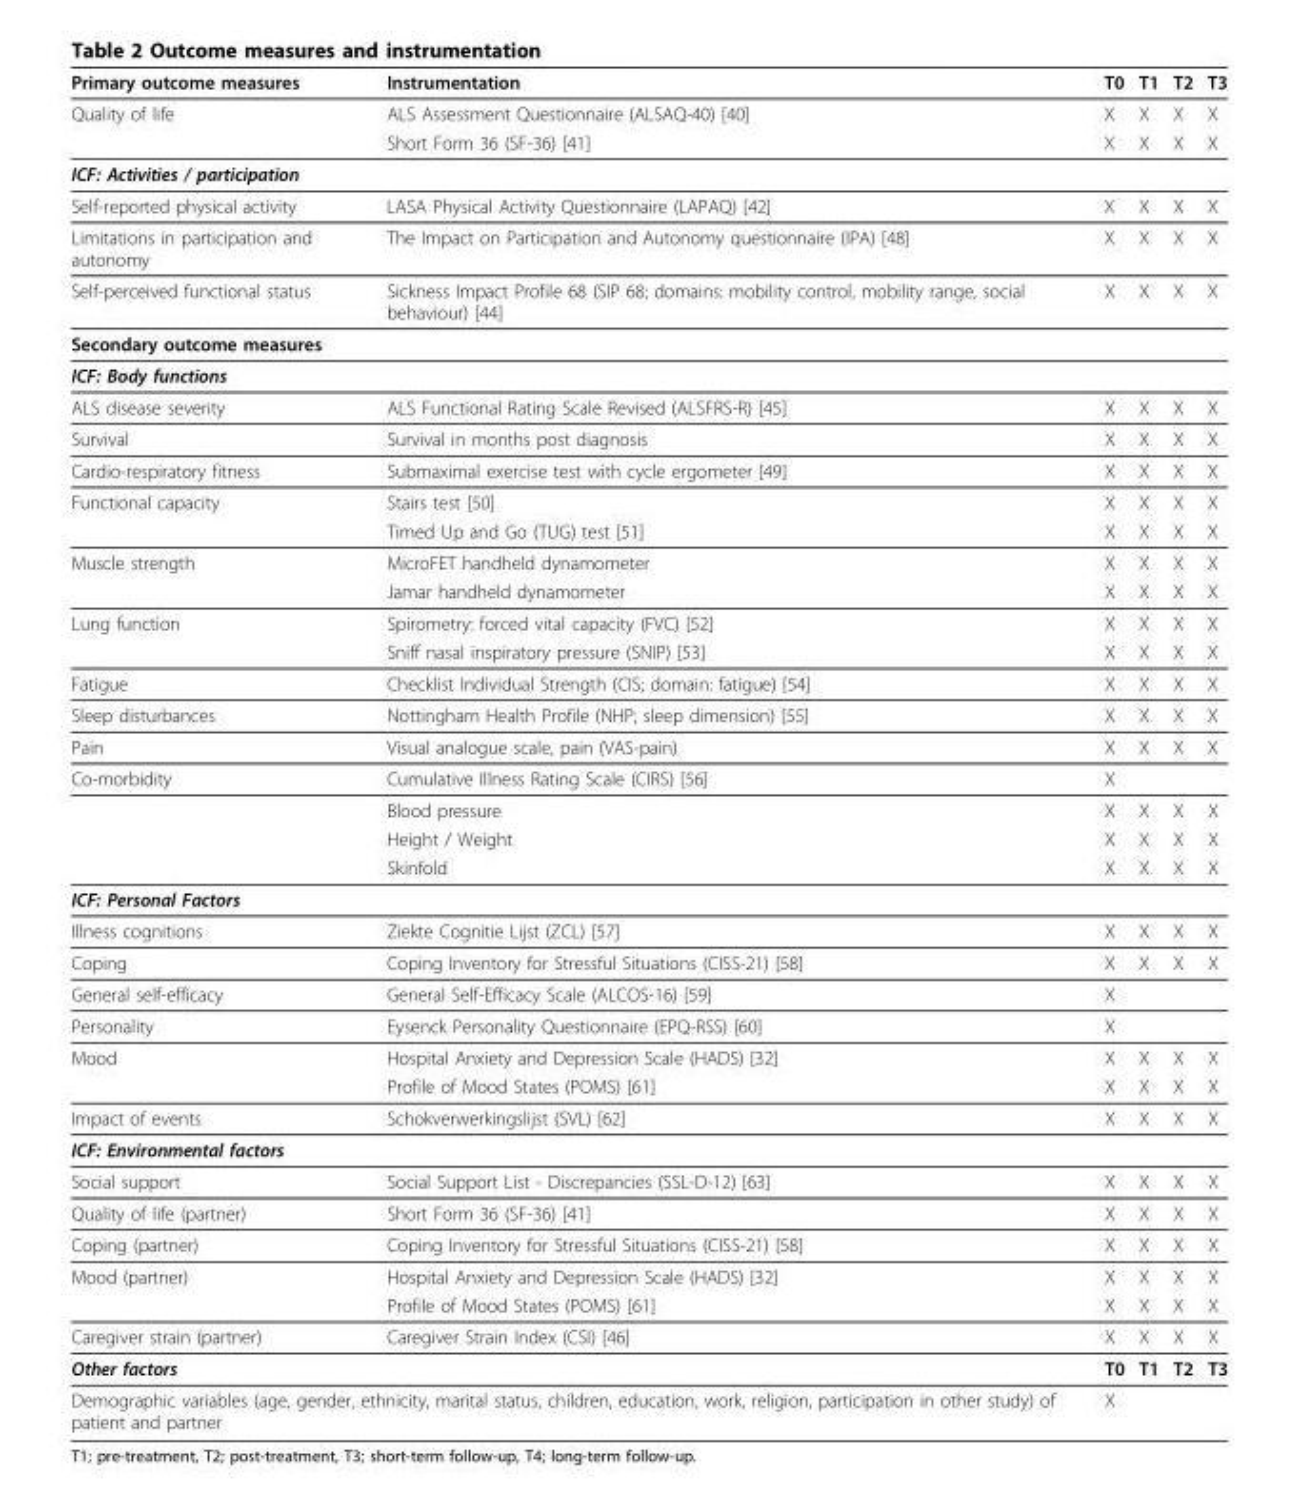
<table><thead><tr><td>Primary outcome measures</td><td>Instrumentation</td><td>T0</td><td>T1</td><td>T2</td><td>T3</td></tr></thead><tbody><tr><td rowspan="2">Quality of life</td><td>ALS Assessment Questionnaire (ALSAQ-40) [40]</td><td>X</td><td>X</td><td>X</td><td>X</td></tr><tr><td>Short Form 36 (SF-36) [41]</td><td>X</td><td>X</td><td>X</td><td>X</td></tr><tr><td colspan="6">ICF: Activities / participation</td></tr><tr><td>Self-reported physical activity</td><td>LASA Physical Activity Questionnaire (LAPAQ) [42]</td><td>X</td><td>X</td><td>X</td><td>X</td></tr><tr><td>Limitations in participation and autonomy</td><td>The Impact on Participation and Autonomy questionnaire (IPA) [48]</td><td>X</td><td>X</td><td>X</td><td>X</td></tr><tr><td>Self-perceived functional status</td><td>Sickness Impact Profile 68 (SIP 68; domains: mobility control, mobility range, social behaviour) [44]</td><td>X</td><td>X</td><td>X</td><td>X</td></tr><tr><td colspan="6">Secondary outcome measures</td></tr><tr><td colspan="6">ICF: Body functions</td></tr><tr><td>ALS disease severity</td><td>ALS Functional Rating Scale Revised (ALSFRS-R) [45]</td><td>X</td><td>X</td><td>X</td><td>X</td></tr><tr><td>Survival</td><td>Survival in months post diagnosis</td><td>X</td><td>X</td><td>X</td><td>X</td></tr><tr><td>Cardio-respiratory fitness</td><td>Submaximal exercise test with cycle ergometer [49]</td><td>X</td><td>X</td><td>X</td><td>X</td></tr><tr><td rowspan="2">Functional capacity</td><td>Stairs test [50]</td><td>X</td><td>X</td><td>X</td><td>X</td></tr><tr><td>Timed Up and Go (TUG) test [51]</td><td>X</td><td>X</td><td>X</td><td>X</td></tr><tr><td rowspan="2">Muscle strength</td><td>MicroFET handheld dynamometer</td><td>X</td><td>X</td><td>X</td><td>X</td></tr><tr><td>Jamar handheld dynamometer</td><td>X</td><td>X</td><td>X</td><td>X</td></tr><tr><td rowspan="2">Lung function</td><td>Spirometry: forced vital capacity (FVC) [52]</td><td>X</td><td>X</td><td>X</td><td>X</td></tr><tr><td>Sniff nasal inspiratory pressure (SNIP) [53]</td><td>X</td><td>X</td><td>X</td><td>X</td></tr><tr><td>Fatigue</td><td>Checklist Individual Strength (CIS; domain: fatigue) [54]</td><td>X</td><td>X</td><td>X</td><td>X</td></tr><tr><td>Sleep disturbances</td><td>Nottingham Health Profile (NHP; sleep dimension) [55]</td><td>X</td><td>X</td><td>X</td><td>X</td></tr><tr><td>Pain</td><td>Visual analogue scale, pain (VAS-pain)</td><td>X</td><td>X</td><td>X</td><td>X</td></tr><tr><td rowspan="4">Co-morbidity</td><td>Cumulative Illness Rating Scale (CIRS) [56]</td><td>X</td><td></td><td></td><td></td></tr><tr><td>Blood pressure</td><td>X</td><td>X</td><td>X</td><td>X</td></tr><tr><td>Height / Weight</td><td>X</td><td>X</td><td>X</td><td>X</td></tr><tr><td>Skinfold</td><td>X</td><td>X</td><td>X</td><td>X</td></tr><tr><td colspan="6">ICF: Personal Factors</td></tr><tr><td>Illness cognitions</td><td>Ziekte Cognitie Lijst (ZCL) [57]</td><td>X</td><td>X</td><td>X</td><td>X</td></tr><tr><td>Coping</td><td>Coping Inventory for Stressful Situations (CISS-21) [58]</td><td>X</td><td>X</td><td>X</td><td>X</td></tr><tr><td>General self-efficacy</td><td>General Self-Efficacy Scale (ALCOS-16) [59]</td><td>X</td><td></td><td></td><td></td></tr><tr><td>Personality</td><td>Eysenck Personality Questionnaire (EPQ-RSS) [60]</td><td>X</td><td></td><td></td><td></td></tr><tr><td rowspan="2">Mood</td><td>Hospital Anxiety and Depression Scale (HADS) [32]</td><td>X</td><td>X</td><td>X</td><td>X</td></tr><tr><td>Profile of Mood States (POMS) [61]</td><td>X</td><td>X</td><td>X</td><td>X</td></tr><tr><td>Impact of events</td><td>Schokverwerkingslijst (SVL) [62]</td><td>X</td><td>X</td><td>X</td><td>X</td></tr><tr><td colspan="6">ICF: Environmental factors</td></tr><tr><td>Social support</td><td>Social Support List - Discrepancies (SSL-D-12) [63]</td><td>X</td><td>X</td><td>X</td><td>X</td></tr><tr><td>Quality of life (partner)</td><td>Short Form 36 (SF-36) [41]</td><td>X</td><td>X</td><td>X</td><td>X</td></tr><tr><td>Coping (partner)</td><td>Coping Inventory for Stressful Situations (CISS-21) [58]</td><td>X</td><td>X</td><td>X</td><td>X</td></tr><tr><td rowspan="2">Mood (partner)</td><td>Hospital Anxiety and Depression Scale (HADS) [32]</td><td>X</td><td>X</td><td>X</td><td>X</td></tr><tr><td>Profile of Mood States (POMS) [61]</td><td>X</td><td>X</td><td>X</td><td>X</td></tr><tr><td>Caregiver strain (partner)</td><td>Caregiver Strain Index (CSI) [46]</td><td>X</td><td>X</td><td>X</td><td>X</td></tr><tr><td colspan="2">Other factors</td><td>T0</td><td>T1</td><td>T2</td><td>T3</td></tr><tr><td colspan="2">Demographic variables (age, gender, ethnicity, marital status, children, education, work, religion, participation in other study) of patient and partner</td><td>X</td><td></td><td></td><td></td></tr></tbody></table>